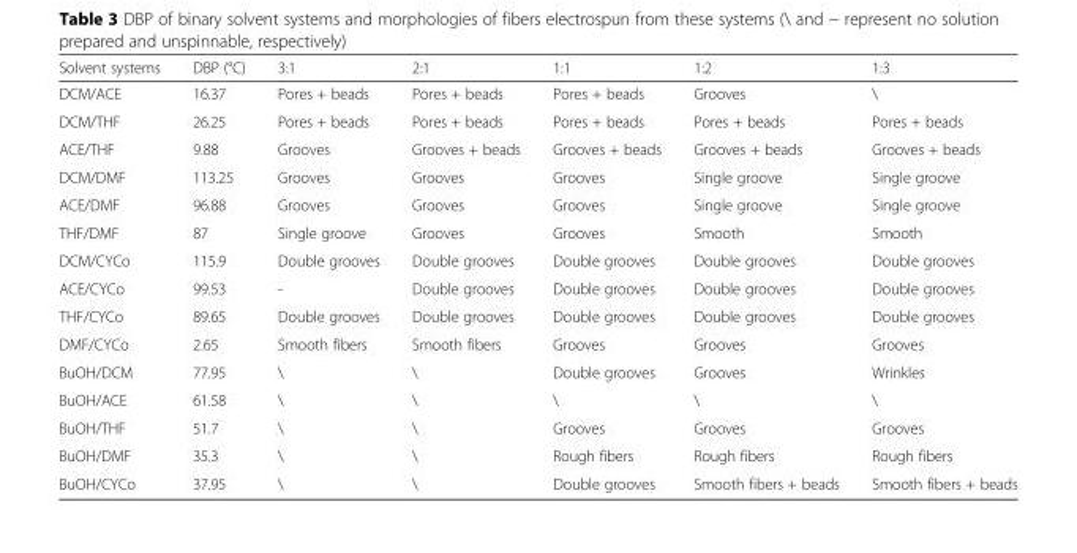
<table><thead><tr><td>Solvent systems</td><td>DBP (°C)</td><td>3:1</td><td>2:1</td><td>1:1</td><td>1:2</td><td>1:3</td></tr></thead><tbody><tr><td>DCM/ACE</td><td>16.37</td><td>Pores + beads</td><td>Pores + beads</td><td>Pores + beads</td><td>Grooves</td><td>\</td></tr><tr><td>DCM/THF</td><td>26.25</td><td>Pores + beads</td><td>Pores + beads</td><td>Pores + beads</td><td>Pores + beads</td><td>Pores + beads</td></tr><tr><td>ACE/THF</td><td>9.88</td><td>Grooves</td><td>Grooves + beads</td><td>Grooves + beads</td><td>Grooves + beads</td><td>Grooves + beads</td></tr><tr><td>DCM/DMF</td><td>113.25</td><td>Grooves</td><td>Grooves</td><td>Grooves</td><td>Single groove</td><td>Single groove</td></tr><tr><td>ACE/DMF</td><td>96.88</td><td>Grooves</td><td>Grooves</td><td>Grooves</td><td>Single groove</td><td>Single groove</td></tr><tr><td>THF/DMF</td><td>87</td><td>Single groove</td><td>Grooves</td><td>Grooves</td><td>Smooth</td><td>Smooth</td></tr><tr><td>DCM/CYCo</td><td>115.9</td><td>Double grooves</td><td>Double grooves</td><td>Double grooves</td><td>Double grooves</td><td>Double grooves</td></tr><tr><td>ACE/CYCo</td><td>99.53</td><td>-</td><td>Double grooves</td><td>Double grooves</td><td>Double grooves</td><td>Double grooves</td></tr><tr><td>THF/CYCo</td><td>89.65</td><td>Double grooves</td><td>Double grooves</td><td>Double grooves</td><td>Double grooves</td><td>Double grooves</td></tr><tr><td>DMF/CYCo</td><td>2.65</td><td>Smooth fibers</td><td>Smooth fibers</td><td>Grooves</td><td>Grooves</td><td>Grooves</td></tr><tr><td>BuOH/DCM</td><td>77.95</td><td>\</td><td>\</td><td>Double grooves</td><td>Grooves</td><td>Wrinkles</td></tr><tr><td>BuOH/ACE</td><td>61.58</td><td>\</td><td>\</td><td>\</td><td>\</td><td>\</td></tr><tr><td>BuOH/THF</td><td>51.7</td><td>\</td><td>\</td><td>Grooves</td><td>Grooves</td><td>Grooves</td></tr><tr><td>BuOH/DMF</td><td>35.3</td><td>\</td><td>\</td><td>Rough fibers</td><td>Rough fibers</td><td>Rough fibers</td></tr><tr><td>BuOH/CYCo</td><td>37.95</td><td>\</td><td>\</td><td>Double grooves</td><td>Smooth fibers + beads</td><td>Smooth fibers + beads</td></tr></tbody></table>